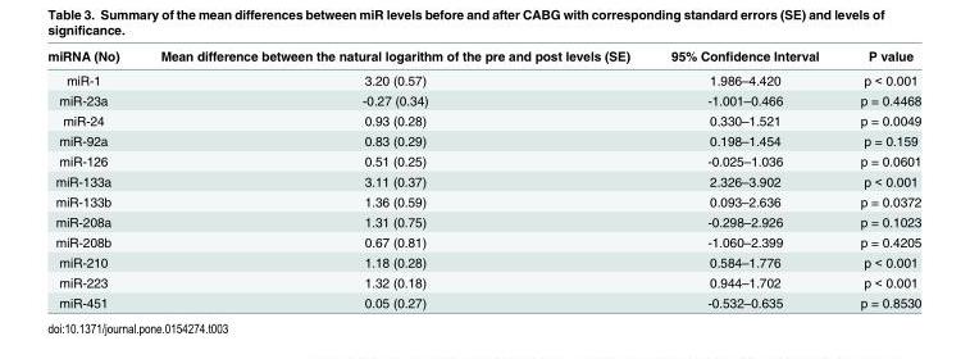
<table><thead><tr><td>miRNA (No)</td><td>Mean difference between the natural logarithm of the pre and post levels (SE)</td><td>95% Confidence Interval</td><td>P value</td></tr></thead><tbody><tr><td>miR-1</td><td>3.20 (0.57)</td><td>1.986–4.420</td><td>p &lt; 0.001</td></tr><tr><td>miR-23a</td><td>-0.27 (0.34)</td><td>-1.001–0.466</td><td>p = 0.4468</td></tr><tr><td>miR-24</td><td>0.93 (0.28)</td><td>0.330–1.521</td><td>p = 0.0049</td></tr><tr><td>miR-92a</td><td>0.83 (0.29)</td><td>0.198–1.454</td><td>p = 0.159</td></tr><tr><td>miR-126</td><td>0.51 (0.25)</td><td>-0.025–1.036</td><td>p = 0.0601</td></tr><tr><td>miR-133a</td><td>3.11 (0.37)</td><td>2.326–3.902</td><td>p &lt; 0.001</td></tr><tr><td>miR-133b</td><td>1.36 (0.59)</td><td>0.093–2.636</td><td>p = 0.0372</td></tr><tr><td>miR-208a</td><td>1.31 (0.75)</td><td>-0.298–2.926</td><td>p = 0.1023</td></tr><tr><td>miR-208b</td><td>0.67 (0.81)</td><td>-1.060–2.399</td><td>p = 0.4205</td></tr><tr><td>miR-210</td><td>1.18 (0.28)</td><td>0.584–1.776</td><td>p &lt; 0.001</td></tr><tr><td>miR-223</td><td>1.32 (0.18)</td><td>0.944–1.702</td><td>p &lt; 0.001</td></tr><tr><td>miR-451</td><td>0.05 (0.27)</td><td>-0.532–0.635</td><td>p = 0.8530</td></tr></tbody></table>